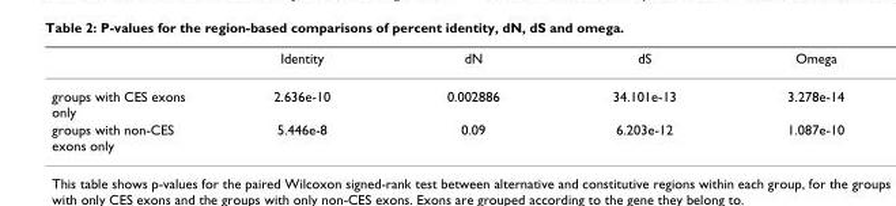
<table><thead><tr><td></td><td>Identity</td><td>dN</td><td>dS</td><td>Omega</td></tr></thead><tbody><tr><td>groups with CES exons only</td><td>2.636e-10</td><td>0.002886</td><td>34.101e-13</td><td>3.278e-14</td></tr><tr><td>groups with non-CES exons only</td><td>5.446e-8</td><td>0.09</td><td>6.203e-12</td><td>1.087e-10</td></tr></tbody></table>